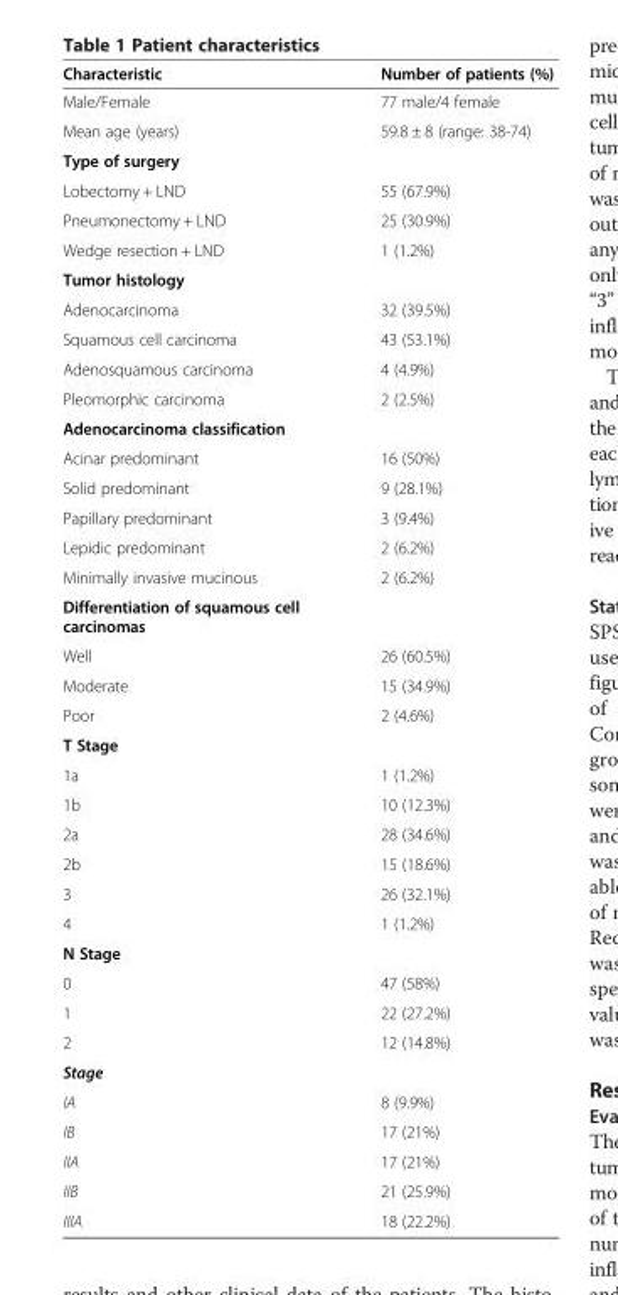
<table><thead><tr><td>Characteristic</td><td>Number of patients (%)</td></tr></thead><tbody><tr><td>Male/Female</td><td>77 male/4 female</td></tr><tr><td>Mean age (years)</td><td>59.8 ± 8 (range: 38-74)</td></tr><tr><td colspan="2">Type of surgery</td></tr><tr><td>Lobectomy + LND</td><td>55 (67.9%)</td></tr><tr><td>Pneumonectomy + LND</td><td>25 (30.9%)</td></tr><tr><td>Wedge resection + LND</td><td>1 (1.2%)</td></tr><tr><td colspan="2">Tumor histology</td></tr><tr><td>Adenocarcinoma</td><td>32 (39.5%)</td></tr><tr><td>Squamous cell carcinoma</td><td>43 (53.1%)</td></tr><tr><td>Adenosquamous carcinoma</td><td>4 (4.9%)</td></tr><tr><td>Pleomorphic carcinoma</td><td>2 (2.5%)</td></tr><tr><td colspan="2">Adenocarcinoma classification</td></tr><tr><td>Acinar predominant</td><td>16 (50%)</td></tr><tr><td>Solid predominant</td><td>9 (28.1%)</td></tr><tr><td>Papillary predominant</td><td>3 (9.4%)</td></tr><tr><td>Lepidic predominant</td><td>2 (6.2%)</td></tr><tr><td>Minimally invasive mucinous</td><td>2 (6.2%)</td></tr><tr><td colspan="2">Differentiation of squamous cell carcinomas</td></tr><tr><td>Well</td><td>26 (60.5%)</td></tr><tr><td>Moderate</td><td>15 (34.9%)</td></tr><tr><td>Poor</td><td>2 (4.6%)</td></tr><tr><td colspan="2">T Stage</td></tr><tr><td>1a</td><td>1 (1.2%)</td></tr><tr><td>1b</td><td>10 (12.3%)</td></tr><tr><td>2a</td><td>28 (34.6%)</td></tr><tr><td>2b</td><td>15 (18.6%)</td></tr><tr><td>3</td><td>26 (32.1%)</td></tr><tr><td>4</td><td>1 (1.2%)</td></tr><tr><td colspan="2">N Stage</td></tr><tr><td>0</td><td>47 (58%)</td></tr><tr><td>1</td><td>22 (27.2%)</td></tr><tr><td>2</td><td>12 (14.8%)</td></tr><tr><td colspan="2">Stage</td></tr><tr><td>IA</td><td>8 (9.9%)</td></tr><tr><td>IB</td><td>17 (21%)</td></tr><tr><td>IIA</td><td>17 (21%)</td></tr><tr><td>IIB</td><td>21 (25.9%)</td></tr><tr><td>IIIA</td><td>18 (22.2%)</td></tr></tbody></table>